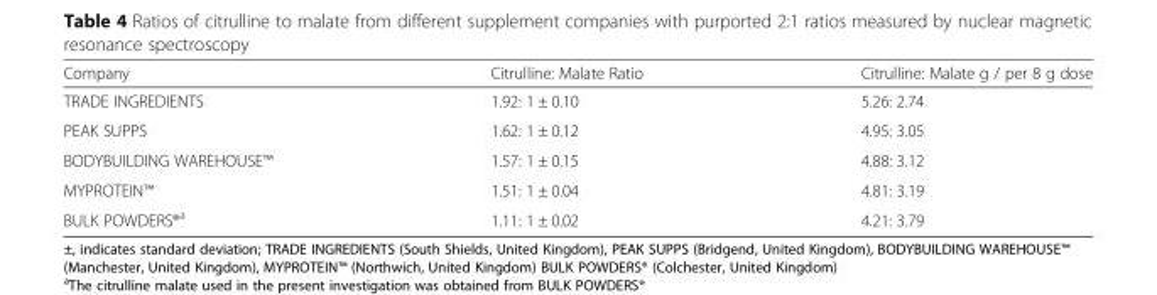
<table><thead><tr><td>Company</td><td>Citrulline: Malate Ratio</td><td>Citrulline: Malate g / per 8 g dose</td></tr></thead><tbody><tr><td>TRADE INGREDIENTS</td><td>1.92: 1 ± 0.10</td><td>5.26: 2.74</td></tr><tr><td>PEAK SUPPS</td><td>1.62: 1 ± 0.12</td><td>4.95: 3.05</td></tr><tr><td>BODYBUILDING WAREHOUSE™</td><td>1.57: 1 ± 0.15</td><td>4.88: 3.12</td></tr><tr><td>MYPROTEIN™</td><td>1.51: 1 ± 0.04</td><td>4.81: 3.19</td></tr><tr><td>BULK POWDERS®<sup>a</sup></td><td>1.11: 1 ± 0.02</td><td>4.21: 3.79</td></tr></tbody></table>